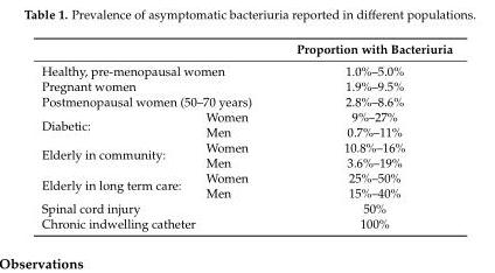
<table><thead><tr><td></td><td></td><td>Proportion with Bacteriuria</td></tr></thead><tbody><tr><td colspan="2">Healthy, pre-menopausal women</td><td>1.0%–5.0%</td></tr><tr><td colspan="2">Pregnant women</td><td>1.9%–9.5%</td></tr><tr><td colspan="2">Postmenopausal women (50–70 years)</td><td>2.8%–8.6%</td></tr><tr><td rowspan="2">Diabetic:</td><td>Women</td><td>9%–27%</td></tr><tr><td>Men</td><td>0.7%–11%</td></tr><tr><td rowspan="2">Elderly in community:</td><td>Women</td><td>10.8%–16%</td></tr><tr><td>Men</td><td>3.6%–19%</td></tr><tr><td rowspan="2">Elderly in long term care:</td><td>Women</td><td>25%–50%</td></tr><tr><td>Men</td><td>15%–40%</td></tr><tr><td colspan="2">Spinal cord injury</td><td>50%</td></tr><tr><td colspan="2">Chronic indwelling catheter</td><td>100%</td></tr></tbody></table>